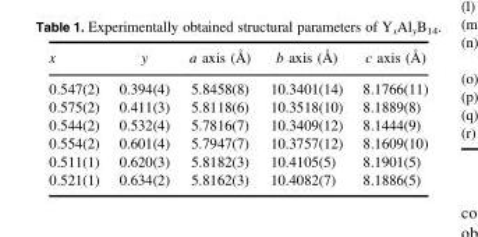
<table><tbody><tr><td>x</td><td>y</td><td>a axis (Å)</td><td>b axis (Å)</td><td>c axis (Å)</td></tr><tr><td>0.547(2)</td><td>0.394(4)</td><td>5.8458(8)</td><td>10.3401(14)</td><td>8.1766(11)</td></tr><tr><td>0.575(2)</td><td>0.411(3)</td><td>5.8118(6)</td><td>10.3518(10)</td><td>8.1889(8)</td></tr><tr><td>0.544(2)</td><td>0.532(4)</td><td>5.7816(7)</td><td>10.3409(12)</td><td>8.1444(9)</td></tr><tr><td>0.554(2)</td><td>0.601(4)</td><td>5.7947(7)</td><td>10.3757(12)</td><td>8.1609(10)</td></tr><tr><td>0.511(1)</td><td>0.620(3)</td><td>5.8182(3)</td><td>10.4105(5)</td><td>8.1901(5)</td></tr><tr><td>0.521(1)</td><td>0.634(2)</td><td>5.8162(3)</td><td>10.4082(7)</td><td>8.1886(5)</td></tr></tbody></table>